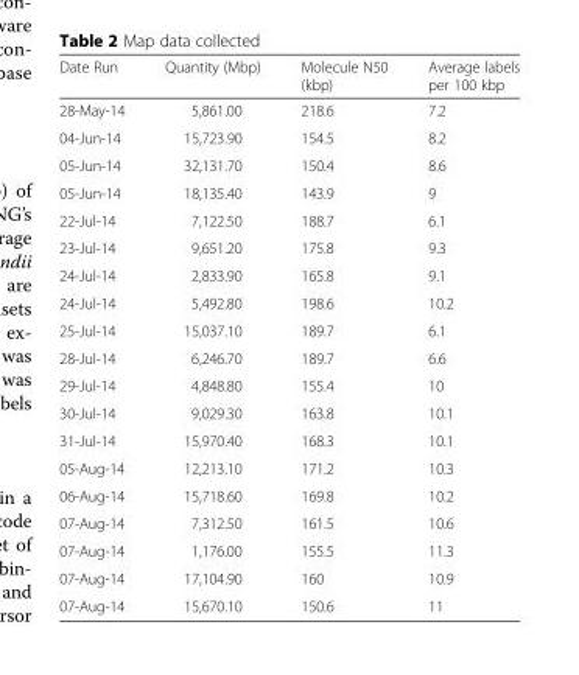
<table><thead><tr><td>Date Run</td><td>Quantity (Mbp)</td><td>Molecule N50 (kbp)</td><td>Average labels per 100 kbp</td></tr></thead><tbody><tr><td>28-May-14</td><td>5,861.00</td><td>218.6</td><td>7.2</td></tr><tr><td>04-Jun-14</td><td>15,723.90</td><td>154.5</td><td>8.2</td></tr><tr><td>05-Jun-14</td><td>32,131.70</td><td>150.4</td><td>8.6</td></tr><tr><td>05-Jun-14</td><td>18,135.40</td><td>143.9</td><td>9</td></tr><tr><td>22-Jul-14</td><td>7,122.50</td><td>188.7</td><td>6.1</td></tr><tr><td>23-Jul-14</td><td>9,651.20</td><td>175.8</td><td>9.3</td></tr><tr><td>24-Jul-14</td><td>2,833.90</td><td>165.8</td><td>9.1</td></tr><tr><td>24-Jul-14</td><td>5,492.80</td><td>198.6</td><td>10.2</td></tr><tr><td>25-Jul-14</td><td>15,037.10</td><td>189.7</td><td>6.1</td></tr><tr><td>28-Jul-14</td><td>6,246.70</td><td>189.7</td><td>6.6</td></tr><tr><td>29-Jul-14</td><td>4,848.80</td><td>155.4</td><td>10</td></tr><tr><td>30-Jul-14</td><td>9,029.30</td><td>163.8</td><td>10.1</td></tr><tr><td>31-Jul-14</td><td>15,970.40</td><td>168.3</td><td>10.1</td></tr><tr><td>05-Aug-14</td><td>12,213.10</td><td>171.2</td><td>10.3</td></tr><tr><td>06-Aug-14</td><td>15,718.60</td><td>169.8</td><td>10.2</td></tr><tr><td>07-Aug-14</td><td>7,312.50</td><td>161.5</td><td>10.6</td></tr><tr><td>07-Aug-14</td><td>1,176.00</td><td>155.5</td><td>11.3</td></tr><tr><td>07-Aug-14</td><td>17,104.90</td><td>160</td><td>10.9</td></tr><tr><td>07-Aug-14</td><td>15,670.10</td><td>150.6</td><td>11</td></tr></tbody></table>